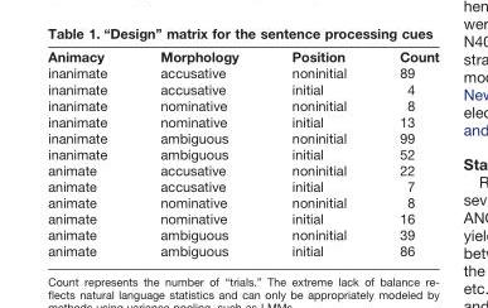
<table><thead><tr><td>Animacy</td><td>Morphology</td><td>Position</td><td>Count</td></tr></thead><tbody><tr><td>inanimate</td><td>accusative</td><td>noninitial</td><td>89</td></tr><tr><td>inanimate</td><td>accusative</td><td>initial</td><td>4</td></tr><tr><td>inanimate</td><td>nominative</td><td>noninitial</td><td>8</td></tr><tr><td>inanimate</td><td>nominative</td><td>initial</td><td>13</td></tr><tr><td>inanimate</td><td>ambiguous</td><td>noninitial</td><td>99</td></tr><tr><td>inanimate</td><td>ambiguous</td><td>initial</td><td>52</td></tr><tr><td>animate</td><td>accusative</td><td>noninitial</td><td>22</td></tr><tr><td>animate</td><td>accusative</td><td>initial</td><td>7</td></tr><tr><td>animate</td><td>nominative</td><td>noninitial</td><td>8</td></tr><tr><td>animate</td><td>nominative</td><td>initial</td><td>16</td></tr><tr><td>animate</td><td>ambiguous</td><td>noninitial</td><td>39</td></tr><tr><td>animate</td><td>ambiguous</td><td>initial</td><td>86</td></tr></tbody></table>